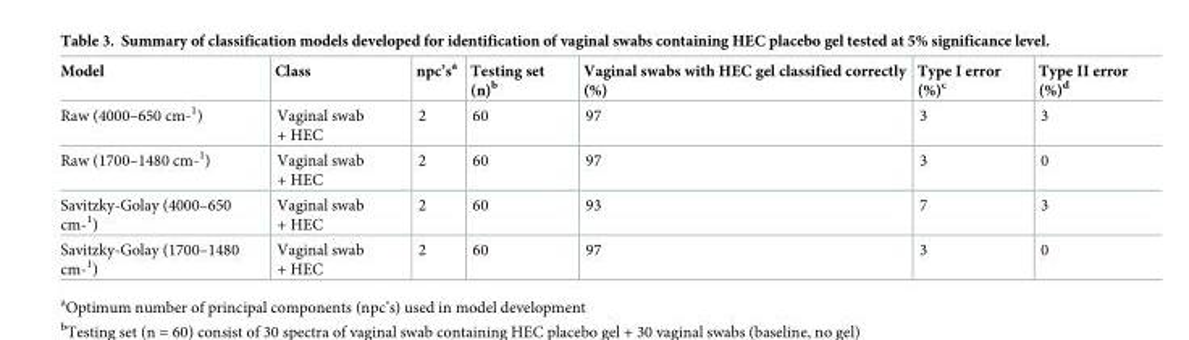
<table><thead><tr><td>Model</td><td>Class</td><td>npc’s<sup>a</sup></td><td>Testing set (n)<sup>b</sup></td><td>Vaginal swabs with HEC gel classified correctly (%)</td><td>Type I error (%)<sup>c</sup></td><td>Type II error (%)<sup>d</sup></td></tr></thead><tbody><tr><td>Raw (4000–650 cm-<sup>1</sup>)</td><td>Vaginal swab + HEC</td><td>2</td><td>60</td><td>97</td><td>3</td><td>3</td></tr><tr><td>Raw (1700–1480 cm-<sup>1</sup>)</td><td>Vaginal swab + HEC</td><td>2</td><td>60</td><td>97</td><td>3</td><td>0</td></tr><tr><td>Savitzky-Golay (4000–650 cm-<sup>1</sup>)</td><td>Vaginal swab + HEC</td><td>2</td><td>60</td><td>93</td><td>7</td><td>3</td></tr><tr><td>Savitzky-Golay (1700–1480 cm-<sup>1</sup>)</td><td>Vaginal swab + HEC</td><td>2</td><td>60</td><td>97</td><td>3</td><td>0</td></tr></tbody></table>